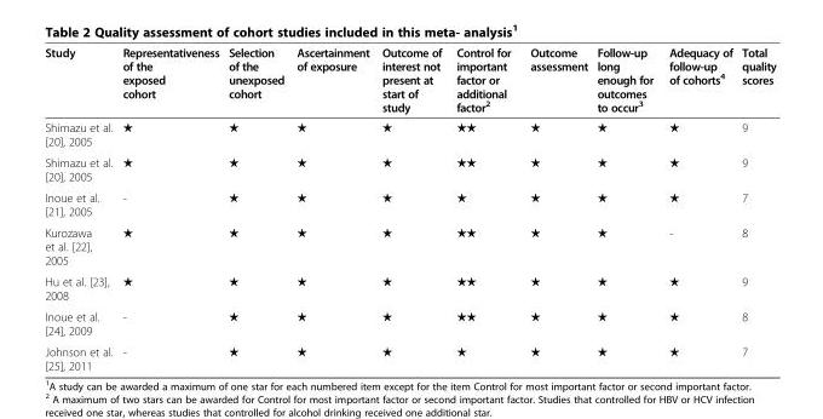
<table><thead><tr><td>Study</td><td>Representativeness of the exposed cohort</td><td>Selection of the unexposed cohort</td><td>Ascertainment of exposure</td><td>Outcome of interest not present at start of study</td><td>Control for important factor or additional factor<sup>2</sup></td><td>Outcome assessment</td><td>Follow-up long enough for outcomes to occur<sup>3</sup></td><td>Adequacy of follow-up of cohorts<sup>4</sup></td><td>Total quality scores</td></tr></thead><tbody><tr><td>Shimazu et al. [20], 2005</td><td>★</td><td>★</td><td>★</td><td>★</td><td>★★</td><td>★</td><td>★</td><td>★</td><td>9</td></tr><tr><td>Shimazu et al. [20], 2005</td><td>★</td><td>★</td><td>★</td><td>★</td><td>★★</td><td>★</td><td>★</td><td>★</td><td>9</td></tr><tr><td>Inoue et al. [21], 2005</td><td>-</td><td>★</td><td>★</td><td>★</td><td>★</td><td>★</td><td>★</td><td>★</td><td>7</td></tr><tr><td>Kurozawa et al. [22], 2005</td><td>★</td><td>★</td><td>★</td><td>★</td><td>★★</td><td>★</td><td>★</td><td>-</td><td>8</td></tr><tr><td>Hu et al. [23], 2008</td><td>★</td><td>★</td><td>★</td><td>★</td><td>★★</td><td>★</td><td>★</td><td>★</td><td>9</td></tr><tr><td>Inoue et al. [24], 2009</td><td>-</td><td>★</td><td>★</td><td>★</td><td>★★</td><td>★</td><td>★</td><td>★</td><td>8</td></tr><tr><td>Johnson et al. [25], 2011</td><td>-</td><td>★</td><td>★</td><td>★</td><td>★</td><td>★</td><td>★</td><td>★</td><td>7</td></tr></tbody></table>